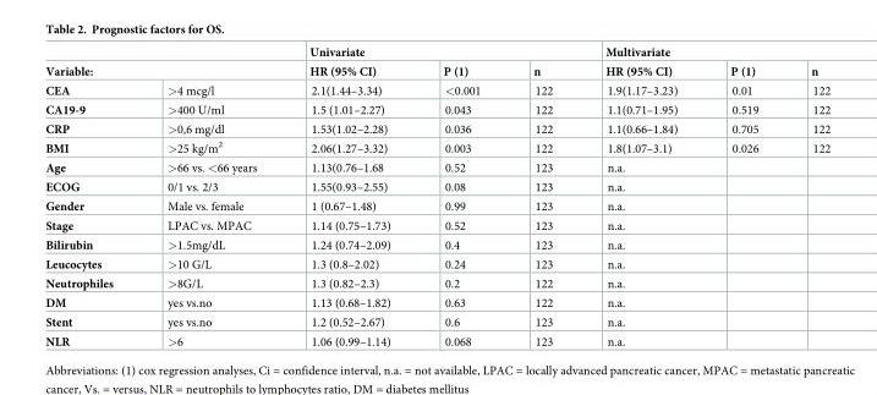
<table><thead><tr><td></td><td></td><td colspan="3">Univariate</td><td colspan="3">Multivariate</td></tr><tr><td colspan="2">Variable:</td><td>HR (95% CI)</td><td>P (1)</td><td>n</td><td>HR (95% CI)</td><td>P (1)</td><td>n</td></tr></thead><tbody><tr><td>CEA</td><td>&gt;4 mcg/l</td><td>2.1(1.44–3.34)</td><td>&lt;0.001</td><td>122</td><td>1.9(1.17–3.23)</td><td>0.01</td><td>122</td></tr><tr><td>CA19-9</td><td>&gt;400 U/ml</td><td>1.5 (1.01–2.27)</td><td>0.043</td><td>122</td><td>1.1(0.71–1.95)</td><td>0.519</td><td>122</td></tr><tr><td>CRP</td><td>&gt;0,6 mg/dl</td><td>1.53(1.02–2.28)</td><td>0.036</td><td>122</td><td>1.1(0.66–1.84)</td><td>0.705</td><td>122</td></tr><tr><td>BMI</td><td>&gt;25 kg/m<sup>2</sup></td><td>2.06(1.27–3.32)</td><td>0.003</td><td>122</td><td>1.8(1.07–3.1)</td><td>0.026</td><td>122</td></tr><tr><td>Age</td><td>&gt;66 vs. &lt;66 years</td><td>1.13(0.76–1.68</td><td>0.52</td><td>123</td><td>n.a.</td><td></td><td></td></tr><tr><td>ECOG</td><td>0/1 vs. 2/3</td><td>1.55(0.93–2.55)</td><td>0.08</td><td>123</td><td>n.a.</td><td></td><td></td></tr><tr><td>Gender</td><td>Male vs. female</td><td>1 (0.67–1.48)</td><td>0.99</td><td>123</td><td>n.a.</td><td></td><td></td></tr><tr><td>Stage</td><td>LPAC vs. MPAC</td><td>1.14 (0.75–1.73)</td><td>0.52</td><td>123</td><td>n.a.</td><td></td><td></td></tr><tr><td>Bilirubin</td><td>&gt;1.5mg/dL</td><td>1.24 (0.74–2.09)</td><td>0.4</td><td>123</td><td>n.a.</td><td></td><td></td></tr><tr><td>Leucocytes</td><td>&gt;10 G/L</td><td>1.3 (0.8–2.02)</td><td>0.24</td><td>123</td><td>n.a.</td><td></td><td></td></tr><tr><td>Neutrophiles</td><td>&gt;8G/L</td><td>1.3 (0.82–2.3)</td><td>0.2</td><td>122</td><td>n.a.</td><td></td><td></td></tr><tr><td>DM</td><td>yes vs.no</td><td>1.13 (0.68–1.82)</td><td>0.63</td><td>122</td><td>n.a.</td><td></td><td></td></tr><tr><td>Stent</td><td>yes vs.no</td><td>1.2 (0.52–2.67)</td><td>0.6</td><td>123</td><td>n.a.</td><td></td><td></td></tr><tr><td>NLR</td><td>&gt;6</td><td>1.06 (0.99–1.14)</td><td>0.068</td><td>123</td><td>n.a.</td><td></td><td></td></tr></tbody></table>